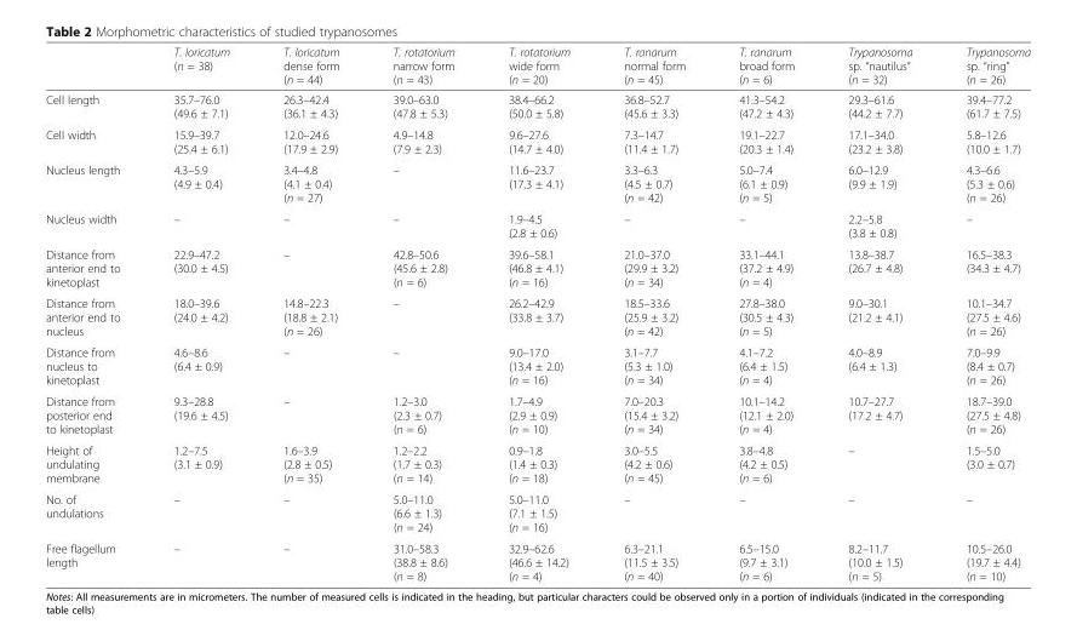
<table><thead><tr><td></td><td>T. loricatum (n = 38)</td><td>T. loricatum dense form (n = 44)</td><td>T. rotatorium narrow form (n = 43)</td><td>T. rotatorium wide form (n = 20)</td><td>T. ranarum normal form (n = 45)</td><td>T. ranarum broad form (n = 6)</td><td>Trypanosoma sp. “nautilus” (n = 32)</td><td>Trypanosoma sp. “ring” (n = 26)</td></tr></thead><tbody><tr><td>Cell length</td><td>35.7–76.0 (49.6 ± 7.1)</td><td>26.3–42.4 (36.1 ± 4.3)</td><td>39.0–63.0 (47.8 ± 5.3)</td><td>38.4–66.2 (50.0 ± 5.8)</td><td>36.8–52.7 (45.6 ± 3.3)</td><td>41.3–54.2 (47.2 ± 4.3)</td><td>29.3–61.6 (44.2 ± 7.7)</td><td>39.4–77.2 (61.7 ± 7.5)</td></tr><tr><td>Cell width</td><td>15.9–39.7 (25.4 ± 6.1)</td><td>12.0–24.6 (17.9 ± 2.9)</td><td>4.9–14.8 (7.9 ± 2.3)</td><td>9.6–27.6 (14.7 ± 4.0)</td><td>7.3–14.7 (11.4 ± 1.7)</td><td>19.1–22.7 (20.3 ± 1.4)</td><td>17.1–34.0 (23.2 ± 3.8)</td><td>5.8–12.6 (10.0 ± 1.7)</td></tr><tr><td>Nucleus length</td><td>4.3–5.9 (4.9 ± 0.4)</td><td>3.4–4.8 (4.1 ± 0.4) (n = 27)</td><td>–</td><td>11.6–23.7 (17.3 ± 4.1)</td><td>3.3–6.3 (4.5 ± 0.7) (n = 42)</td><td>5.0–7.4 (6.1 ± 0.9) (n = 5)</td><td>6.0–12.9 (9.9 ± 1.9)</td><td>4.3–6.6 (5.3 ± 0.6) (n = 26)</td></tr><tr><td>Nucleus width</td><td>–</td><td>–</td><td>–</td><td>1.9–4.5 (2.8 ± 0.6)</td><td>–</td><td>–</td><td>2.2–5.8 (3.8 ± 0.8)</td><td>–</td></tr><tr><td>Distance from anterior end to kinetoplast</td><td>22.9–47.2 (30.0 ± 4.5)</td><td>–</td><td>42.8–50.6 (45.6 ± 2.8) (n = 6)</td><td>39.6–58.1 (46.8 ± 4.1) (n = 16)</td><td>21.0–37.0 (29.9 ± 3.2) (n = 34)</td><td>33.1–44.1 (37.2 ± 4.9) (n = 4)</td><td>13.8–38.7 (26.7 ± 4.8)</td><td>16.5–38.3 (34.3 ± 4.7)</td></tr><tr><td>Distance from anterior end to nucleus</td><td>18.0–39.6 (24.0 ± 4.2)</td><td>14.8–22.3 (18.8 ± 2.1) (n = 26)</td><td>–</td><td>26.2–42.9 (33.8 ± 3.7)</td><td>18.5–33.6 (25.9 ± 3.2) (n = 42)</td><td>27.8–38.0 (30.5 ± 4.3) (n = 5)</td><td>9.0–30.1 (21.2 ± 4.1)</td><td>10.1–34.7 (27.5 ± 4.6) (n = 26)</td></tr><tr><td>Distance from nucleus to kinetoplast</td><td>4.6–8.6 (6.4 ± 0.9)</td><td>–</td><td>–</td><td>9.0–17.0 (13.4 ± 2.0) (n = 16)</td><td>3.1–7.7 (5.3 ± 1.0) (n = 34)</td><td>4.1–7.2 (6.4 ± 1.5) (n = 4)</td><td>4.0–8.9 (6.4 ± 1.3)</td><td>7.0–9.9 (8.4 ± 0.7) (n = 26)</td></tr><tr><td>Distance from posterior end to kinetoplast</td><td>9.3–28.8 (19.6 ± 4.5)</td><td>–</td><td>1.2–3.0 (2.3 ± 0.7) (n = 6)</td><td>1.7–4.9 (2.9 ± 0.9) (n = 10)</td><td>7.0–20.3 (15.4 ± 3.2) (n = 34)</td><td>10.1–14.2 (12.1 ± 2.0) (n = 4)</td><td>10.7–27.7 (17.2 ± 4.7)</td><td>18.7–39.0 (27.5 ± 4.8) (n = 26)</td></tr><tr><td>Height of undulating membrane</td><td>1.2–7.5 (3.1 ± 0.9)</td><td>1.6–3.9 (2.8 ± 0.5) (n = 35)</td><td>1.2–2.2 (1.7 ± 0.3) (n = 14)</td><td>0.9–1.8 (1.4 ± 0.3) (n = 18)</td><td>3.0–5.5 (4.2 ± 0.6) (n = 45)</td><td>3.8–4.8 (4.2 ± 0.5) (n = 6)</td><td>–</td><td>1.5–5.0 (3.0 ± 0.7)</td></tr><tr><td>No. of undulations</td><td>–</td><td>–</td><td>5.0–11.0 (6.6 ± 1.3) (n = 24)</td><td>5.0–11.0 (7.1 ± 1.5) (n = 16)</td><td>–</td><td>–</td><td>–</td><td>–</td></tr><tr><td>Free flagellum length</td><td>–</td><td>–</td><td>31.0–58.3 (38.8 ± 8.6) (n = 8)</td><td>32.9–62.6 (46.6 ± 14.2) (n = 4)</td><td>6.3–21.1 (11.5 ± 3.5) (n = 40)</td><td>6.5–15.0 (9.7 ± 3.1) (n = 6)</td><td>8.2–11.7 (10.0 ± 1.5) (n = 5)</td><td>10.5–26.0 (19.7 ± 4.4) (n = 10)</td></tr></tbody></table>